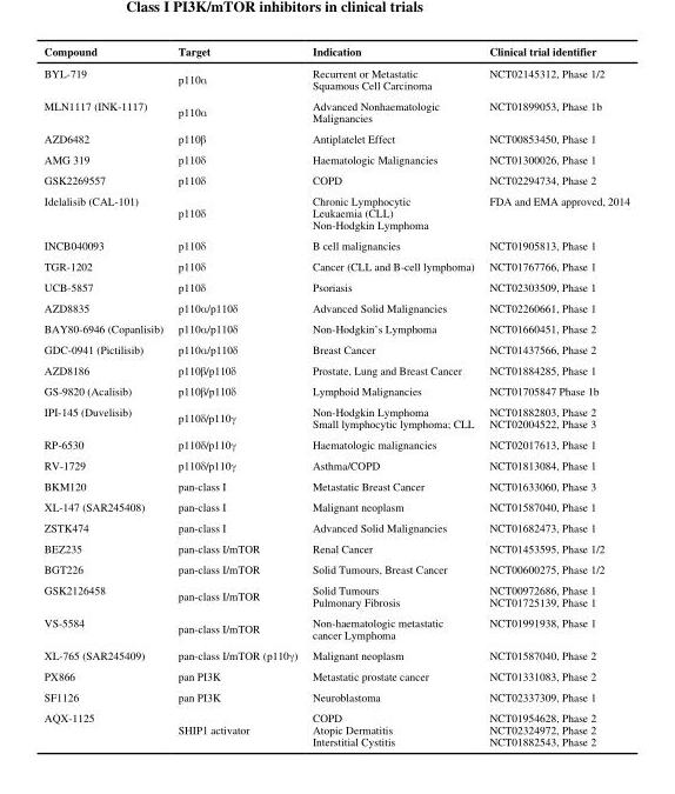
<table><thead><tr><td>Compound</td><td>Target</td><td>Indication</td><td>Clinical trial identifier</td></tr></thead><tbody><tr><td>BYL-719</td><td>p110α</td><td>Recurrent or Metastatic Squamous Cell Carcinoma</td><td>NCT02145312, Phase 1/2</td></tr><tr><td>MLN1117 (INK-1117)</td><td>p110α</td><td>Advanced Nonhaematologic Malignancies</td><td>NCT01899053, Phase 1b</td></tr><tr><td>AZD6482</td><td>p110β</td><td>Antiplatelet Effect</td><td>NCT00853450, Phase 1</td></tr><tr><td>AMG 319</td><td>p110δ</td><td>Haematologic Malignancies</td><td>NCT01300026, Phase 1</td></tr><tr><td>GSK2269557</td><td>p110δ</td><td>COPD</td><td>NCT02294734, Phase 2</td></tr><tr><td>Idelalisib (CAL-101)</td><td>p110δ</td><td>Chronic Lymphocytic Leukaemia (CLL) Non-Hodgkin Lymphoma</td><td>FDA and EMA approved, 2014</td></tr><tr><td>INCB040093</td><td>p110δ</td><td>B cell malignancies</td><td>NCT01905813, Phase 1</td></tr><tr><td>TGR-1202</td><td>p110δ</td><td>Cancer (CLL and B-cell lymphoma)</td><td>NCT01767766, Phase 1</td></tr><tr><td>UCB-5857</td><td>p110δ</td><td>Psoriasis</td><td>NCT02303509, Phase 1</td></tr><tr><td>AZD8835</td><td>p110α/p110δ</td><td>Advanced Solid Malignancies</td><td>NCT02260661, Phase 1</td></tr><tr><td>BAY80-6946 (Copanlisib)</td><td>p110α/p110δ</td><td>Non-Hodgkin’s Lymphoma</td><td>NCT01660451, Phase 2</td></tr><tr><td>GDC-0941 (Pictilisib)</td><td>p110α/p110δ</td><td>Breast Cancer</td><td>NCT01437566, Phase 2</td></tr><tr><td>AZD8186</td><td>p110β/p110δ</td><td>Prostate, Lung and Breast Cancer</td><td>NCT01884285, Phase 1</td></tr><tr><td>GS-9820 (Acalisib)</td><td>p110β/p110δ</td><td>Lymphoid Malignancies</td><td>NCT01705847 Phase 1b</td></tr><tr><td>IPI-145 (Duvelisib)</td><td>p110δ/p110γ</td><td>Non-Hodgkin Lymphoma Small lymphocytic lymphoma; CLL</td><td>NCT01882803, Phase 2 NCT02004522, Phase 3</td></tr><tr><td>RP-6530</td><td>p110δ/p110γ</td><td>Haematologic malignancies</td><td>NCT02017613, Phase 1</td></tr><tr><td>RV-1729</td><td>p110δ/p110γ</td><td>Asthma/COPD</td><td>NCT01813084, Phase 1</td></tr><tr><td>BKM120</td><td>pan-class I</td><td>Metastatic Breast Cancer</td><td>NCT01633060, Phase 3</td></tr><tr><td>XL-147 (SAR245408)</td><td>pan-class I</td><td>Malignant neoplasm</td><td>NCT01587040, Phase 1</td></tr><tr><td>ZSTK474</td><td>pan-class I</td><td>Advanced Solid Malignancies</td><td>NCT01682473, Phase 1</td></tr><tr><td>BEZ235</td><td>pan-class I/mTOR</td><td>Renal Cancer</td><td>NCT01453595, Phase 1/2</td></tr><tr><td>BGT226</td><td>pan-class I/mTOR</td><td>Solid Tumours, Breast Cancer</td><td>NCT00600275, Phase 1/2</td></tr><tr><td>GSK2126458</td><td>pan-class I/mTOR</td><td>Solid Tumours Pulmonary Fibrosis</td><td>NCT00972686, Phase 1 NCT01725139, Phase 1</td></tr><tr><td>VS-5584</td><td>pan-class I/mTOR</td><td>Non-haematologic metastatic cancer Lymphoma</td><td>NCT01991938, Phase 1</td></tr><tr><td>XL-765 (SAR245409)</td><td>pan-class I/mTOR (p110γ)</td><td>Malignant neoplasm</td><td>NCT01587040, Phase 2</td></tr><tr><td>PX866</td><td>pan PI3K</td><td>Metastatic prostate cancer</td><td>NCT01331083, Phase 2</td></tr><tr><td>SF1126</td><td>pan PI3K</td><td>Neuroblastoma</td><td>NCT02337309, Phase 1</td></tr><tr><td>AQX-1125</td><td>SHIP1 activator</td><td>COPD Atopic Dermatitis Interstitial Cystitis</td><td>NCT01954628, Phase 2 NCT02324972, Phase 2 NCT01882543, Phase 2</td></tr></tbody></table>